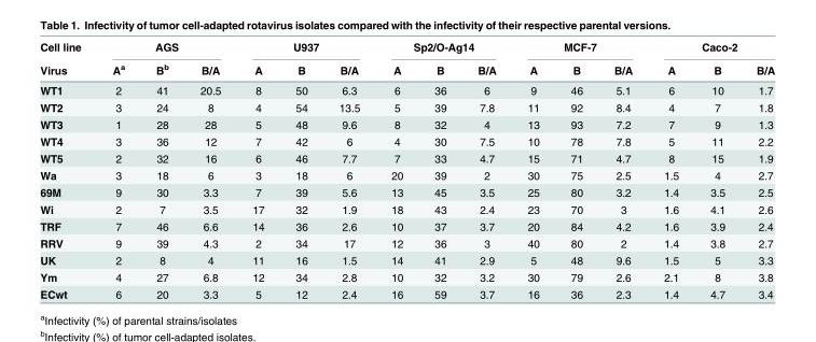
<table><thead><tr><td rowspan="2">Cell line Virus</td><td colspan="3">AGS</td><td colspan="3">U937</td><td colspan="3">Sp2/O-Ag14</td><td colspan="3">MCF-7</td><td colspan="3">Caco-2</td></tr><tr><td>A<sup>a</sup></td><td>B<sup>b</sup></td><td>B/A</td><td>A</td><td>B</td><td>B/A</td><td>A</td><td>B</td><td>B/A</td><td>A</td><td>B</td><td>B/A</td><td>A</td><td>B</td><td>B/A</td></tr></thead><tbody><tr><td>WT1</td><td>2</td><td>41</td><td>20.5</td><td>8</td><td>50</td><td>6.3</td><td>6</td><td>36</td><td>6</td><td>9</td><td>46</td><td>5.1</td><td>6</td><td>10</td><td>1.7</td></tr><tr><td>WT2</td><td>3</td><td>24</td><td>8</td><td>4</td><td>54</td><td>13.5</td><td>5</td><td>39</td><td>7.8</td><td>11</td><td>92</td><td>8.4</td><td>4</td><td>7</td><td>1.8</td></tr><tr><td>WT3</td><td>1</td><td>28</td><td>28</td><td>5</td><td>48</td><td>9.6</td><td>8</td><td>32</td><td>4</td><td>13</td><td>93</td><td>7.2</td><td>7</td><td>9</td><td>1.3</td></tr><tr><td>WT4</td><td>3</td><td>36</td><td>12</td><td>7</td><td>42</td><td>6</td><td>4</td><td>30</td><td>7.5</td><td>10</td><td>78</td><td>7.8</td><td>5</td><td>11</td><td>2.2</td></tr><tr><td>WT5</td><td>2</td><td>32</td><td>16</td><td>6</td><td>46</td><td>7.7</td><td>7</td><td>33</td><td>4.7</td><td>15</td><td>71</td><td>4.7</td><td>8</td><td>15</td><td>1.9</td></tr><tr><td>Wa</td><td>3</td><td>18</td><td>6</td><td>3</td><td>18</td><td>6</td><td>20</td><td>39</td><td>2</td><td>30</td><td>75</td><td>2.5</td><td>1.5</td><td>4</td><td>2.7</td></tr><tr><td>69M</td><td>9</td><td>30</td><td>3.3</td><td>7</td><td>39</td><td>5.6</td><td>13</td><td>45</td><td>3.5</td><td>25</td><td>80</td><td>3.2</td><td>1.4</td><td>3.5</td><td>2.5</td></tr><tr><td>Wi</td><td>2</td><td>7</td><td>3.5</td><td>17</td><td>32</td><td>1.9</td><td>18</td><td>43</td><td>2.4</td><td>23</td><td>70</td><td>3</td><td>1.6</td><td>4.1</td><td>2.6</td></tr><tr><td>TRF</td><td>7</td><td>46</td><td>6.6</td><td>14</td><td>36</td><td>2.6</td><td>10</td><td>37</td><td>3.7</td><td>20</td><td>84</td><td>4.2</td><td>1.6</td><td>3.9</td><td>2.4</td></tr><tr><td>RRV</td><td>9</td><td>39</td><td>4.3</td><td>2</td><td>34</td><td>17</td><td>12</td><td>36</td><td>3</td><td>40</td><td>80</td><td>2</td><td>1.4</td><td>3.8</td><td>2.7</td></tr><tr><td>UK</td><td>2</td><td>8</td><td>4</td><td>11</td><td>16</td><td>1.5</td><td>14</td><td>41</td><td>2.9</td><td>5</td><td>48</td><td>9.6</td><td>1.5</td><td>5</td><td>3.3</td></tr><tr><td>Ym</td><td>4</td><td>27</td><td>6.8</td><td>12</td><td>34</td><td>2.8</td><td>10</td><td>32</td><td>3.2</td><td>30</td><td>79</td><td>2.6</td><td>2.1</td><td>8</td><td>3.8</td></tr><tr><td>ECwt</td><td>6</td><td>20</td><td>3.3</td><td>5</td><td>12</td><td>2.4</td><td>16</td><td>59</td><td>3.7</td><td>16</td><td>36</td><td>2.3</td><td>1.4</td><td>4.7</td><td>3.4</td></tr></tbody></table>